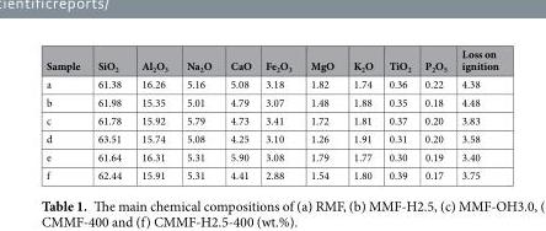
<table><thead><tr><td>Sample</td><td>SiO<sub>2</sub></td><td>Al<sub>2</sub>O<sub>3</sub></td><td>Na<sub>2</sub>O</td><td>CaO</td><td>Fe<sub>2</sub>O<sub>3</sub></td><td>MgO</td><td>K<sub>2</sub>O</td><td>TiO<sub>2</sub></td><td>P<sub>2</sub>O<sub>5</sub></td><td>Loss on ignition</td></tr></thead><tbody><tr><td>a</td><td>61.38</td><td>16.26</td><td>5.16</td><td>5.08</td><td>3.18</td><td>1.82</td><td>1.74</td><td>0.36</td><td>0.22</td><td>4.38</td></tr><tr><td>b</td><td>61.98</td><td>15.35</td><td>5.01</td><td>4.79</td><td>3.07</td><td>1.48</td><td>1.88</td><td>0.35</td><td>0.18</td><td>4.48</td></tr><tr><td>c</td><td>61.78</td><td>15.92</td><td>5.79</td><td>4.73</td><td>3.41</td><td>1.72</td><td>1.81</td><td>0.37</td><td>0.20</td><td>3.83</td></tr><tr><td>d</td><td>63.51</td><td>15.74</td><td>5.08</td><td>4.25</td><td>3.10</td><td>1.26</td><td>1.91</td><td>0.31</td><td>0.20</td><td>3.58</td></tr><tr><td>e</td><td>61.64</td><td>16.31</td><td>5.31</td><td>5.90</td><td>3.08</td><td>1.79</td><td>1.77</td><td>0.30</td><td>0.19</td><td>3.40</td></tr><tr><td>f</td><td>62.44</td><td>15.91</td><td>5.31</td><td>4.41</td><td>2.88</td><td>1.54</td><td>1.80</td><td>0.39</td><td>0.17</td><td>3.75</td></tr></tbody></table>